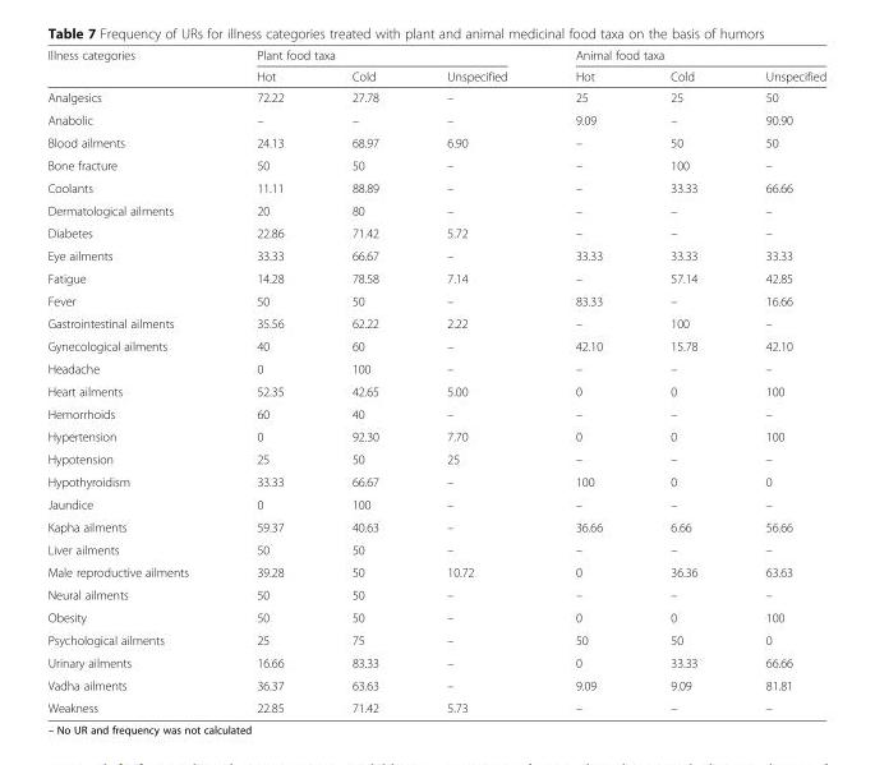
<table><thead><tr><td rowspan="2">Illness categories</td><td colspan="3">Plant food taxa</td><td colspan="3">Animal food taxa</td></tr><tr><td>Hot</td><td>Cold</td><td>Unspecified</td><td>Hot</td><td>Cold</td><td>Unspecified</td></tr></thead><tbody><tr><td>Analgesics</td><td>72.22</td><td>27.78</td><td>–</td><td>25</td><td>25</td><td>50</td></tr><tr><td>Anabolic</td><td>–</td><td>–</td><td>–</td><td>9.09</td><td>–</td><td>90.90</td></tr><tr><td>Blood ailments</td><td>24.13</td><td>68.97</td><td>6.90</td><td>–</td><td>50</td><td>50</td></tr><tr><td>Bone fracture</td><td>50</td><td>50</td><td>–</td><td>–</td><td>100</td><td>–</td></tr><tr><td>Coolants</td><td>11.11</td><td>88.89</td><td>–</td><td>–</td><td>33.33</td><td>66.66</td></tr><tr><td>Dermatological ailments</td><td>20</td><td>80</td><td>–</td><td>–</td><td>–</td><td>–</td></tr><tr><td>Diabetes</td><td>22.86</td><td>71.42</td><td>5.72</td><td>–</td><td>–</td><td>–</td></tr><tr><td>Eye ailments</td><td>33.33</td><td>66.67</td><td>–</td><td>33.33</td><td>33.33</td><td>33.33</td></tr><tr><td>Fatigue</td><td>14.28</td><td>78.58</td><td>7.14</td><td>–</td><td>57.14</td><td>42.85</td></tr><tr><td>Fever</td><td>50</td><td>50</td><td>–</td><td>83.33</td><td>–</td><td>16.66</td></tr><tr><td>Gastrointestinal ailments</td><td>35.56</td><td>62.22</td><td>2.22</td><td>–</td><td>100</td><td>–</td></tr><tr><td>Gynecological ailments</td><td>40</td><td>60</td><td>–</td><td>42.10</td><td>15.78</td><td>42.10</td></tr><tr><td>Headache</td><td>0</td><td>100</td><td>–</td><td>–</td><td>–</td><td>–</td></tr><tr><td>Heart ailments</td><td>52.35</td><td>42.65</td><td>5.00</td><td>0</td><td>0</td><td>100</td></tr><tr><td>Hemorrhoids</td><td>60</td><td>40</td><td>–</td><td>–</td><td>–</td><td>–</td></tr><tr><td>Hypertension</td><td>0</td><td>92.30</td><td>7.70</td><td>0</td><td>0</td><td>100</td></tr><tr><td>Hypotension</td><td>25</td><td>50</td><td>25</td><td>–</td><td>–</td><td>–</td></tr><tr><td>Hypothyroidism</td><td>33.33</td><td>66.67</td><td>–</td><td>100</td><td>0</td><td>0</td></tr><tr><td>Jaundice</td><td>0</td><td>100</td><td>–</td><td>–</td><td>–</td><td>–</td></tr><tr><td>Kapha ailments</td><td>59.37</td><td>40.63</td><td>–</td><td>36.66</td><td>6.66</td><td>56.66</td></tr><tr><td>Liver ailments</td><td>50</td><td>50</td><td>–</td><td>–</td><td>–</td><td>–</td></tr><tr><td>Male reproductive ailments</td><td>39.28</td><td>50</td><td>10.72</td><td>0</td><td>36.36</td><td>63.63</td></tr><tr><td>Neural ailments</td><td>50</td><td>50</td><td>–</td><td>–</td><td>–</td><td>–</td></tr><tr><td>Obesity</td><td>50</td><td>50</td><td>–</td><td>0</td><td>0</td><td>100</td></tr><tr><td>Psychological ailments</td><td>25</td><td>75</td><td>–</td><td>50</td><td>50</td><td>0</td></tr><tr><td>Urinary ailments</td><td>16.66</td><td>83.33</td><td>–</td><td>0</td><td>33.33</td><td>66.66</td></tr><tr><td>Vadha ailments</td><td>36.37</td><td>63.63</td><td>–</td><td>9.09</td><td>9.09</td><td>81.81</td></tr><tr><td>Weakness</td><td>22.85</td><td>71.42</td><td>5.73</td><td>–</td><td>–</td><td>–</td></tr></tbody></table>